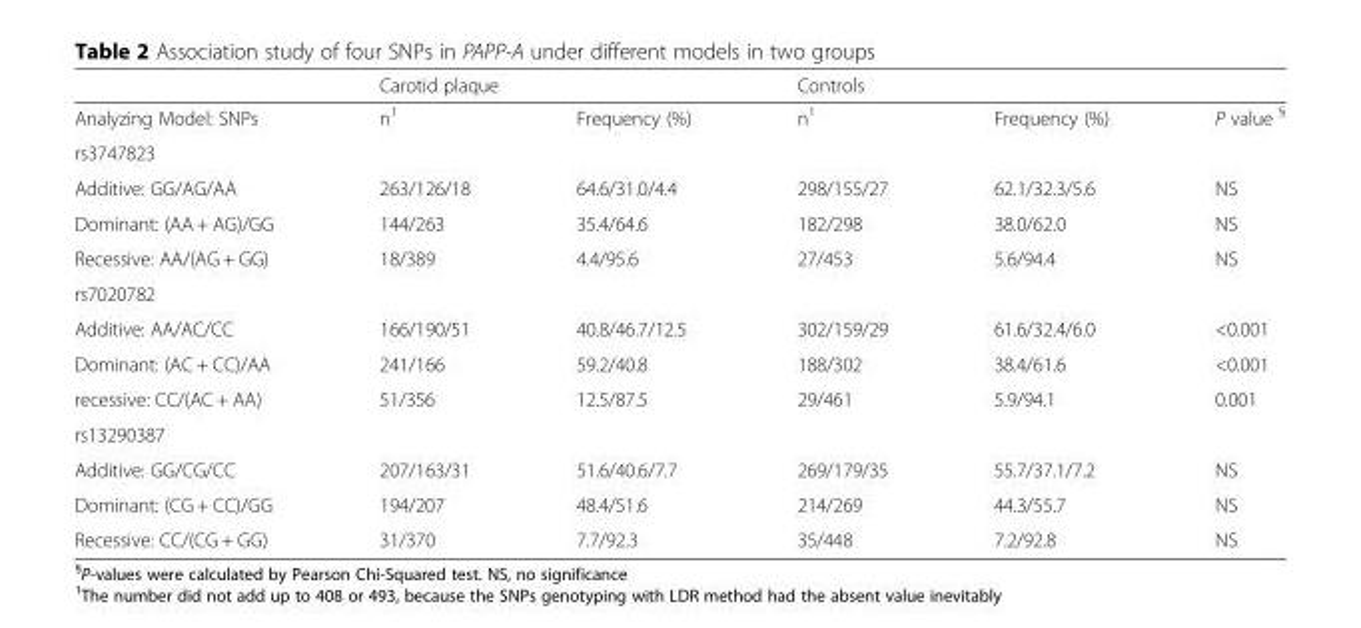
<table><thead><tr><td rowspan="2">Analyzing Model: SNPs</td><td colspan="2">Carotid plaque</td><td colspan="2">Controls</td><td rowspan="2">P value <sup>§</sup></td></tr><tr><td>n<sup>1</sup></td><td>Frequency (%)</td><td>n<sup>1</sup></td><td>Frequency (%)</td></tr></thead><tbody><tr><td colspan="6">rs3747823</td></tr><tr><td>Additive: GG/AG/AA</td><td>263/126/18</td><td>64.6/31.0/4.4</td><td>298/155/27</td><td>62.1/32.3/5.6</td><td>NS</td></tr><tr><td>Dominant: (AA + AG)/GG</td><td>144/263</td><td>35.4/64.6</td><td>182/298</td><td>38.0/62.0</td><td>NS</td></tr><tr><td>Recessive: AA/(AG + GG)</td><td>18/389</td><td>4.4/95.6</td><td>27/453</td><td>5.6/94.4</td><td>NS</td></tr><tr><td colspan="6">rs7020782</td></tr><tr><td>Additive: AA/AC/CC</td><td>166/190/51</td><td>40.8/46.7/12.5</td><td>302/159/29</td><td>61.6/32.4/6.0</td><td>&lt;0.001</td></tr><tr><td>Dominant: (AC + CC)/AA</td><td>241/166</td><td>59.2/40.8</td><td>188/302</td><td>38.4/61.6</td><td>&lt;0.001</td></tr><tr><td>recessive: CC/(AC + AA)</td><td>51/356</td><td>12.5/87.5</td><td>29/461</td><td>5.9/94.1</td><td>0.001</td></tr><tr><td colspan="6">rs13290387</td></tr><tr><td>Additive: GG/CG/CC</td><td>207/163/31</td><td>51.6/40.6/7.7</td><td>269/179/35</td><td>55.7/37.1/7.2</td><td>NS</td></tr><tr><td>Dominant: (CG + CC)/GG</td><td>194/207</td><td>48.4/51.6</td><td>214/269</td><td>44.3/55.7</td><td>NS</td></tr><tr><td>Recessive: CC/(CG + GG)</td><td>31/370</td><td>7.7/92.3</td><td>35/448</td><td>7.2/92.8</td><td>NS</td></tr></tbody></table>